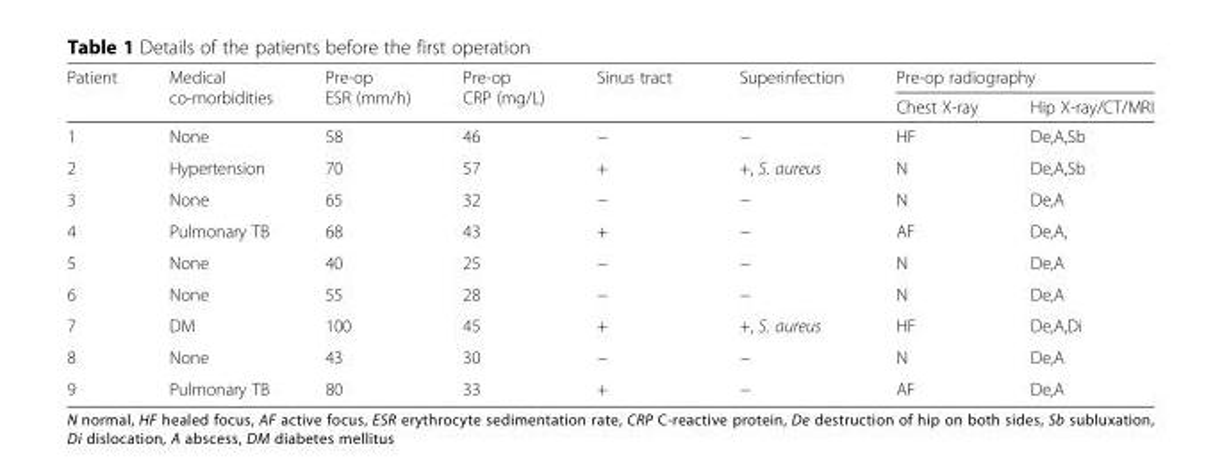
<table><thead><tr><td rowspan="2">Patient</td><td rowspan="2">Medical co-morbidities</td><td rowspan="2">Pre-op ESR (mm/h)</td><td rowspan="2">Pre-op CRP (mg/L)</td><td rowspan="2">Sinus tract</td><td rowspan="2">Superinfection</td><td colspan="2">Pre-op radiography</td></tr><tr><td>Chest X-ray</td><td>Hip X-ray/CT/MRI</td></tr></thead><tbody><tr><td>1</td><td>None</td><td>58</td><td>46</td><td>−</td><td>−</td><td>HF</td><td>De,A,Sb</td></tr><tr><td>2</td><td>Hypertension</td><td>70</td><td>57</td><td>+</td><td>+, S. aureus</td><td>N</td><td>De,A,Sb</td></tr><tr><td>3</td><td>None</td><td>65</td><td>32</td><td>−</td><td>−</td><td>N</td><td>De,A</td></tr><tr><td>4</td><td>Pulmonary TB</td><td>68</td><td>43</td><td>+</td><td>−</td><td>AF</td><td>De,A,</td></tr><tr><td>5</td><td>None</td><td>40</td><td>25</td><td>−</td><td>−</td><td>N</td><td>De,A</td></tr><tr><td>6</td><td>None</td><td>55</td><td>28</td><td>−</td><td>−</td><td>N</td><td>De,A</td></tr><tr><td>7</td><td>DM</td><td>100</td><td>45</td><td>+</td><td>+, S. aureus</td><td>HF</td><td>De,A,Di</td></tr><tr><td>8</td><td>None</td><td>43</td><td>30</td><td>−</td><td>−</td><td>N</td><td>De,A</td></tr><tr><td>9</td><td>Pulmonary TB</td><td>80</td><td>33</td><td>+</td><td>−</td><td>AF</td><td>De,A</td></tr></tbody></table>